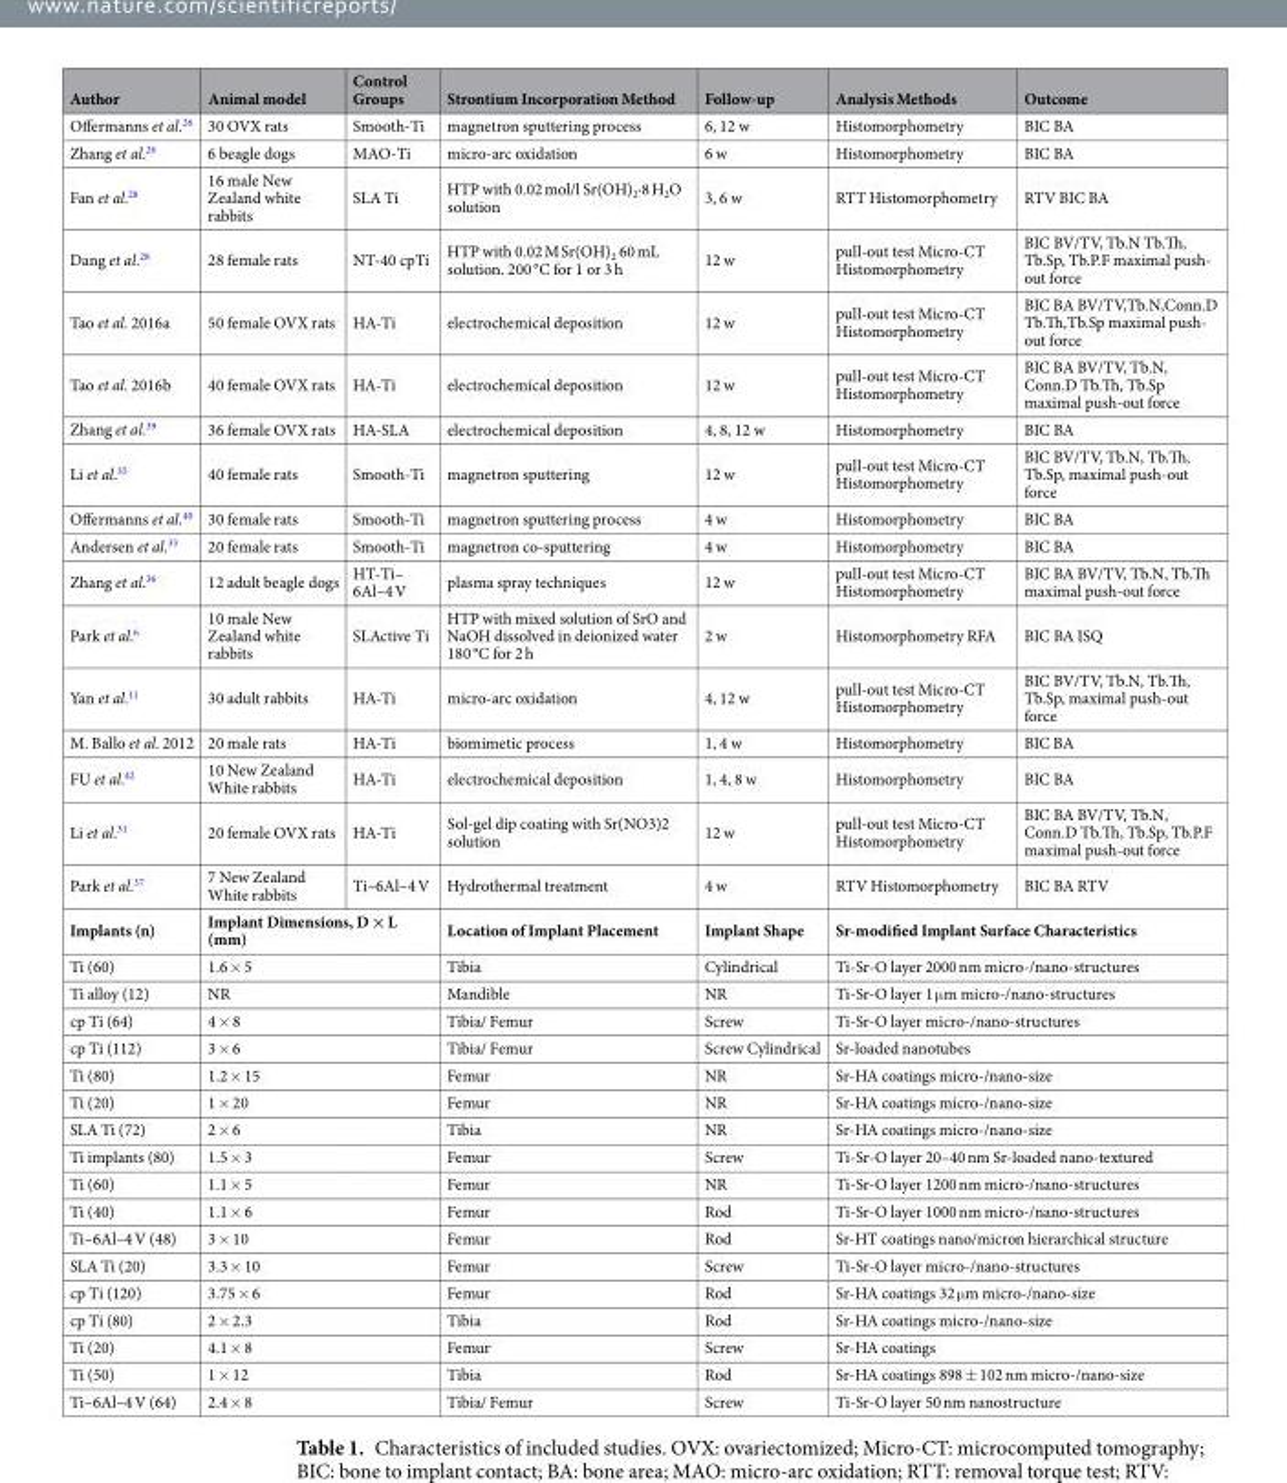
<table><thead><tr><td>Author</td><td>Animal model</td><td>Control Groups</td><td>Strontium Incorporation Method</td><td>Follow-up</td><td>Analysis Methods</td><td>Outcome</td></tr></thead><tbody><tr><td>Offermanns et al.<sup>26</sup></td><td>30 OVX rats</td><td>Smooth-Ti</td><td>magnetron sputtering process</td><td>6, 12 w</td><td>Histomorphometry</td><td>BIC BA</td></tr><tr><td>Zhang et al.<sup>26</sup></td><td>6 beagle dogs</td><td>MAO-Ti</td><td>micro-arc oxidation</td><td>6 w</td><td>Histomorphometry</td><td>BIC BA</td></tr><tr><td>Fan et al.<sup>28</sup></td><td>16 male New Zealand white rabbits</td><td>SLA Ti</td><td>HTP with 0.02 mol/l Sr(OH)<sub>2</sub>·8 H<sub>2</sub>O solution</td><td>3, 6 w</td><td>RTT Histomorphometry</td><td>RTV BIC BA</td></tr><tr><td>Dang et al.<sup>28</sup></td><td>28 female rats</td><td>NT-40 cpTi</td><td>HTP with 0.02 M Sr(OH)<sub>2</sub> 60 mL solution. 200 °C for 1 or 3 h</td><td>12 w</td><td>pull-out test Micro-CT Histomorphometry</td><td>BIC BV/TV, Tb.N Tb.Th, Tb.Sp, Tb.P.F maximal push- out force</td></tr><tr><td>Tao et al. 2016a</td><td>50 female OVX rats</td><td>HA-Ti</td><td>electrochemical deposition</td><td>12 w</td><td>pull-out test Micro-CT Histomorphometry</td><td>BIC BA BV/TV,Tb.N,Conn.D Tb.Th,Tb.Sp maximal push- out force</td></tr><tr><td>Tao et al. 2016b</td><td>40 female OVX rats</td><td>HA-Ti</td><td>electrochemical deposition</td><td>12 w</td><td>pull-out test Micro-CT Histomorphometry</td><td>BIC BA BV/TV, Tb.N, Conn.D Tb.Th, Tb.Sp maximal push-out force</td></tr><tr><td>Zhang et al.<sup>39</sup></td><td>36 female OVX rats</td><td>HA-SLA</td><td>electrochemical deposition</td><td>4, 8, 12 w</td><td>Histomorphometry</td><td>BIC BA</td></tr><tr><td>Li et al.<sup>35</sup></td><td>40 female rats</td><td>Smooth-Ti</td><td>magnetron sputtering</td><td>12 w</td><td>pull-out test Micro-CT Histomorphometry</td><td>BIC BV/TV, Tb.N, Tb.Th, Tb.Sp, maximal push-out force</td></tr><tr><td>Offermanns et al.<sup>40</sup></td><td>30 female rats</td><td>Smooth-Ti</td><td>magnetron sputtering process</td><td>4 w</td><td>Histomorphometry</td><td>BIC BA</td></tr><tr><td>Andersen et al.<sup>33</sup></td><td>20 female rats</td><td>Smooth-Ti</td><td>magnetron co-sputtering</td><td>4 w</td><td>Histomorphometry</td><td>BIC BA</td></tr><tr><td>Zhang et al.<sup>36</sup></td><td>12 adult beagle dogs</td><td>HT-Ti– 6Al–4 V</td><td>plasma spray techniques</td><td>12 w</td><td>pull-out test Micro-CT Histomorphometry</td><td>BIC BA BV/TV, Tb.N, Tb.Th maximal push-out force</td></tr><tr><td>Park et al.<sup>6</sup></td><td>10 male New Zealand white rabbits</td><td>SLActive Ti</td><td>HTP with mixed solution of SrO and NaOH dissolved in deionized water 180 °C for 2 h</td><td>2 w</td><td>Histomorphometry RFA</td><td>BIC BA ISQ</td></tr><tr><td>Yan et al.<sup>11</sup></td><td>30 adult rabbits</td><td>HA-Ti</td><td>micro-arc oxidation</td><td>4, 12 w</td><td>pull-out test Micro-CT Histomorphometry</td><td>BIC BV/TV, Tb.N, Tb.Th, Tb.Sp, maximal push-out force</td></tr><tr><td>M. Ballo et al. 2012</td><td>20 male rats</td><td>HA-Ti</td><td>biomimetic process</td><td>1, 4 w</td><td>Histomorphometry</td><td>BIC BA</td></tr><tr><td>FU et al.<sup>42</sup></td><td>10 New Zealand White rabbits</td><td>HA-Ti</td><td>electrochemical deposition</td><td>1, 4, 8 w</td><td>Histomorphometry</td><td>BIC BA</td></tr><tr><td>Li et al.<sup>31</sup></td><td>20 female OVX rats</td><td>HA-Ti</td><td>Sol-gel dip coating with Sr(NO3)2 solution</td><td>12 w</td><td>pull-out test Micro-CT Histomorphometry</td><td>BIC BA BV/TV, Tb.N, Conn.D Tb.Th, Tb.Sp, Tb.P.F maximal push-out force</td></tr><tr><td>Park et al.<sup>37</sup></td><td>7 New Zealand White rabbits</td><td>Ti–6Al–4 V</td><td>Hydrothermal treatment</td><td>4 w</td><td>RTV Histomorphometry</td><td>BIC BA RTV</td></tr><tr><td>Implants (n)</td><td colspan="2">Implant Dimensions, D × L (mm)</td><td>Location of Implant Placement</td><td>Implant Shape</td><td colspan="2">Sr-modified Implant Surface Characteristics</td></tr><tr><td>Ti (60)</td><td colspan="2">1.6 × 5</td><td>Tibia</td><td>Cylindrical</td><td colspan="2">Ti-Sr-O layer 2000 nm micro-/nano-structures</td></tr><tr><td>Ti alloy (12)</td><td colspan="2">NR</td><td>Mandible</td><td>NR</td><td colspan="2">Ti-Sr-O layer 1 μm micro-/nano-structures</td></tr><tr><td>cp Ti (64)</td><td colspan="2">4 × 8</td><td>Tibia/ Femur</td><td>Screw</td><td colspan="2">Ti-Sr-O layer micro-/nano-structures</td></tr><tr><td>cp Ti (112)</td><td colspan="2">3 × 6</td><td>Tibia/ Femur</td><td>Screw Cylindrical</td><td colspan="2">Sr-loaded nanotubes</td></tr><tr><td>Ti (80)</td><td colspan="2">1.2 × 15</td><td>Femur</td><td>NR</td><td colspan="2">Sr-HA coatings micro-/nano-size</td></tr><tr><td>Ti (20)</td><td colspan="2">1 × 20</td><td>Femur</td><td>NR</td><td colspan="2">Sr-HA coatings micro-/nano-size</td></tr><tr><td>SLA Ti (72)</td><td colspan="2">2 × 6</td><td>Tibia</td><td>NR</td><td colspan="2">Sr-HA coatings micro-/nano-size</td></tr><tr><td>Ti implants (80)</td><td colspan="2">1.5 × 3</td><td>Femur</td><td>Screw</td><td colspan="2">Ti-Sr-O layer 20–40 nm Sr-loaded nano-textured</td></tr><tr><td>Ti (60)</td><td colspan="2">1.1 × 5</td><td>Femur</td><td>NR</td><td colspan="2">Ti-Sr-O layer 1200 nm micro-/nano-structures</td></tr><tr><td>Ti (40)</td><td colspan="2">1.1 × 6</td><td>Femur</td><td>Rod</td><td colspan="2">Ti-Sr-O layer 1000 nm micro-/nano-structures</td></tr><tr><td>Ti–6Al–4 V (48)</td><td colspan="2">3 × 10</td><td>Femur</td><td>Rod</td><td colspan="2">Sr-HT coatings nano/micron hierarchical structure</td></tr><tr><td>SLA Ti (20)</td><td colspan="2">3.3 × 10</td><td>Femur</td><td>Screw</td><td colspan="2">Ti-Sr-O layer micro-/nano-structures</td></tr><tr><td>cp Ti (120)</td><td colspan="2">3.75 × 6</td><td>Femur</td><td>Rod</td><td colspan="2">Sr-HA coatings 32 μm micro-/nano-size</td></tr><tr><td>cp Ti (80)</td><td colspan="2">2 × 2.3</td><td>Tibia</td><td>Rod</td><td colspan="2">Sr-HA coatings micro-/nano-size</td></tr><tr><td>Ti (20)</td><td colspan="2">4.1 × 8</td><td>Femur</td><td>Screw</td><td colspan="2">Sr-HA coatings</td></tr><tr><td>Ti (50)</td><td colspan="2">1 × 12</td><td>Tibia</td><td>Rod</td><td colspan="2">Sr-HA coatings 898 ± 102 nm micro-/nano-size</td></tr><tr><td>Ti–6Al–4 V (64)</td><td colspan="2">2.4 × 8</td><td>Tibia/ Femur</td><td>Screw</td><td colspan="2">Ti-Sr-O layer 50 nm nanostructure</td></tr></tbody></table>